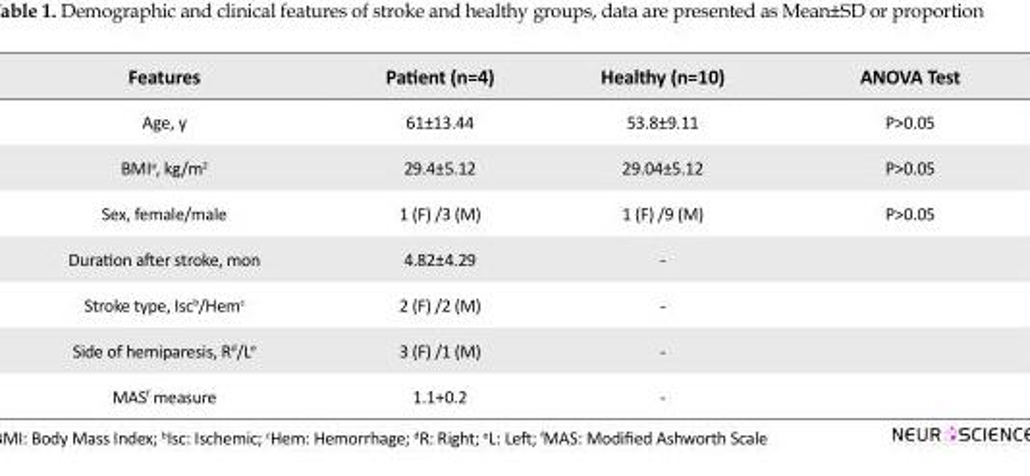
<table><thead><tr><td>Features</td><td>Patient (n=4)</td><td>Healthy (n=10)</td><td>ANOVA Test</td></tr></thead><tbody><tr><td>Age, y</td><td>61±13.44</td><td>53.8±9.11</td><td>P&gt;0.05</td></tr><tr><td>BMI<sup>a</sup>, kg/m<sup>2</sup></td><td>29.4±5.12</td><td>29.04±5.12</td><td>P&gt;0.05</td></tr><tr><td>Sex, female/male</td><td>1 (F) /3 (M)</td><td>1 (F) /9 (M)</td><td>P&gt;0.05</td></tr><tr><td>Duration after stroke, mon</td><td>4.82±4.29</td><td>-</td><td></td></tr><tr><td>Stroke type, Isc<sup>b</sup>/Hem<sup>c</sup></td><td>2 (F) /2 (M)</td><td>-</td><td></td></tr><tr><td>Side of hemiparesis, R<sup>d</sup>/L<sup>e</sup></td><td>3 (F) /1 (M)</td><td>-</td><td></td></tr><tr><td>MAS<sup>f</sup> measure</td><td>1.1+0.2</td><td>-</td><td></td></tr></tbody></table>